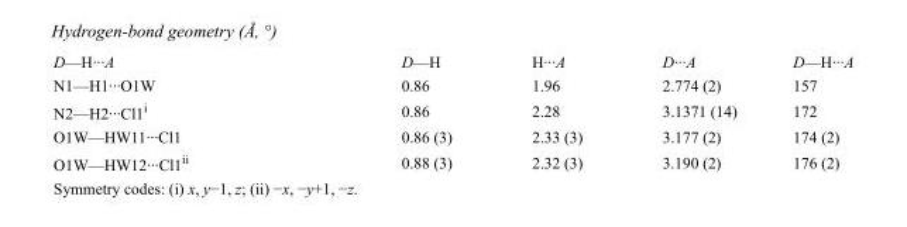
<table><tbody><tr><td>D—H···A</td><td>D—H</td><td>H···A</td><td>D···A</td><td>D—H···A</td></tr><tr><td>N1—H1···O1W</td><td>0.86</td><td>1.96</td><td>2.774 (2)</td><td>157</td></tr><tr><td>N2—H2···Cl1<sup>i</sup></td><td>0.86</td><td>2.28</td><td>3.1371 (14)</td><td>172</td></tr><tr><td>O1W—HW11···Cl1</td><td>0.86 (3)</td><td>2.33 (3)</td><td>3.177 (2)</td><td>174 (2)</td></tr><tr><td>O1W—HW12···Cl1<sup>ii</sup></td><td>0.88 (3)</td><td>2.32 (3)</td><td>3.190 (2)</td><td>176 (2)</td></tr></tbody></table>